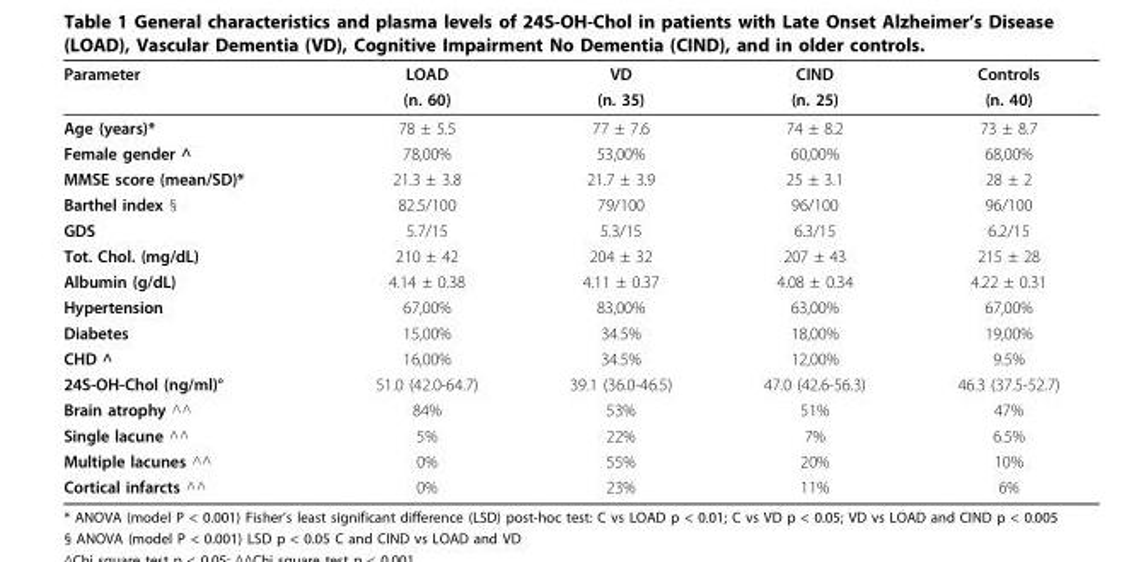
<table><thead><tr><td rowspan="2">Parameter</td><td rowspan="2">LOAD (n. 60)</td><td rowspan="2">VD (n. 35)</td><td rowspan="2">CIND (n. 25)</td><td rowspan="2">Controls (n. 40)</td></tr><tr></tr></thead><tbody><tr><td>Age (years)*</td><td>78 ± 5.5</td><td>77 ± 7.6</td><td>74 ± 8.2</td><td>73 ± 8.7</td></tr><tr><td>Female gender ^</td><td>78,00%</td><td>53,00%</td><td>60,00%</td><td>68,00%</td></tr><tr><td>MMSE score (mean/SD)*</td><td>21.3 ± 3.8</td><td>21.7 ± 3.9</td><td>25 ± 3.1</td><td>28 ± 2</td></tr><tr><td>Barthel index §</td><td>82.5/100</td><td>79/100</td><td>96/100</td><td>96/100</td></tr><tr><td>GDS</td><td>5.7/15</td><td>5.3/15</td><td>6.3/15</td><td>6.2/15</td></tr><tr><td>Tot. Chol. (mg/dL)</td><td>210 ± 42</td><td>204 ± 32</td><td>207 ± 43</td><td>215 ± 28</td></tr><tr><td>Albumin (g/dL)</td><td>4.14 ± 0.38</td><td>4.11 ± 0.37</td><td>4.08 ± 0.34</td><td>4.22 ± 0.31</td></tr><tr><td>Hypertension</td><td>67,00%</td><td>83,00%</td><td>63,00%</td><td>67,00%</td></tr><tr><td>Diabetes</td><td>15,00%</td><td>34.5%</td><td>18,00%</td><td>19,00%</td></tr><tr><td>CHD ^</td><td>16,00%</td><td>34.5%</td><td>12,00%</td><td>9.5%</td></tr><tr><td>24S-OH-Chol (ng/ml)°</td><td>51.0 (42.0-64.7)</td><td>39.1 (36.0-46.5)</td><td>47.0 (42.6-56.3)</td><td>46.3 (37.5-52.7)</td></tr><tr><td>Brain atrophy ^^</td><td>84%</td><td>53%</td><td>51%</td><td>47%</td></tr><tr><td>Single lacune ^^</td><td>5%</td><td>22%</td><td>7%</td><td>6.5%</td></tr><tr><td>Multiple lacunes ^^</td><td>0%</td><td>55%</td><td>20%</td><td>10%</td></tr><tr><td>Cortical infarcts ^^</td><td>0%</td><td>23%</td><td>11%</td><td>6%</td></tr></tbody></table>